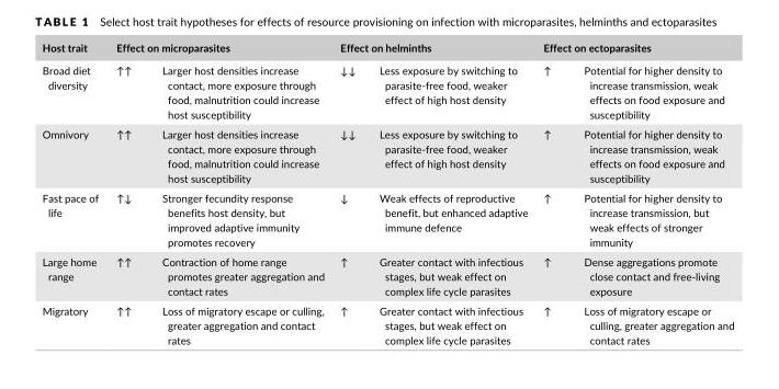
<table><thead><tr><td rowspan="2">Host trait Broad diet diversity</td><td colspan="2">Effect on microparasites</td><td colspan="2">Effect on helminths</td><td colspan="2">Effect on ectoparasites</td></tr><tr><td>↑↑</td><td>Larger host densities increase contact, more exposure through food, malnutrition could increase host susceptibility</td><td>↓↓</td><td>Less exposure by switching to parasite- free food, weaker effect of high host density</td><td>↑</td><td>Potential for higher density to increase transmission, weak effects on food exposure and susceptibility</td></tr></thead><tbody><tr><td>Omnivory</td><td>↑↑</td><td>Larger host densities increase contact, more exposure through food, malnutrition could increase host susceptibility</td><td>↓↓</td><td>Less exposure by switching to parasite- free food, weaker effect of high host density</td><td>↑</td><td>Potential for higher density to increase transmission, weak effects on food exposure and susceptibility</td></tr><tr><td>Fast pace of life</td><td>↑↓</td><td>Stronger fecundity response benefits host density, but improved adaptive immunity promotes recovery</td><td>↓</td><td>Weak effects of reproductive benefit, but enhanced adaptive immune defence</td><td>↑</td><td>Potential for higher density to increase transmission, but weak effects of stronger immunity</td></tr><tr><td>Large home range</td><td>↑↑</td><td>Contraction of home range promotes greater aggregation and contact rates</td><td>↑</td><td>Greater contact with infectious stages, but weak effect on complex life cycle parasites</td><td>↑</td><td>Dense aggregations promote close contact and free- living exposure</td></tr><tr><td>Migratory</td><td>↑↑</td><td>Loss of migratory escape or culling, greater aggregation and contact rates</td><td>↑</td><td>Greater contact with infectious stages, but weak effect on complex life cycle parasites</td><td>↑</td><td>Loss of migratory escape or culling, greater aggregation and contact rates</td></tr></tbody></table>